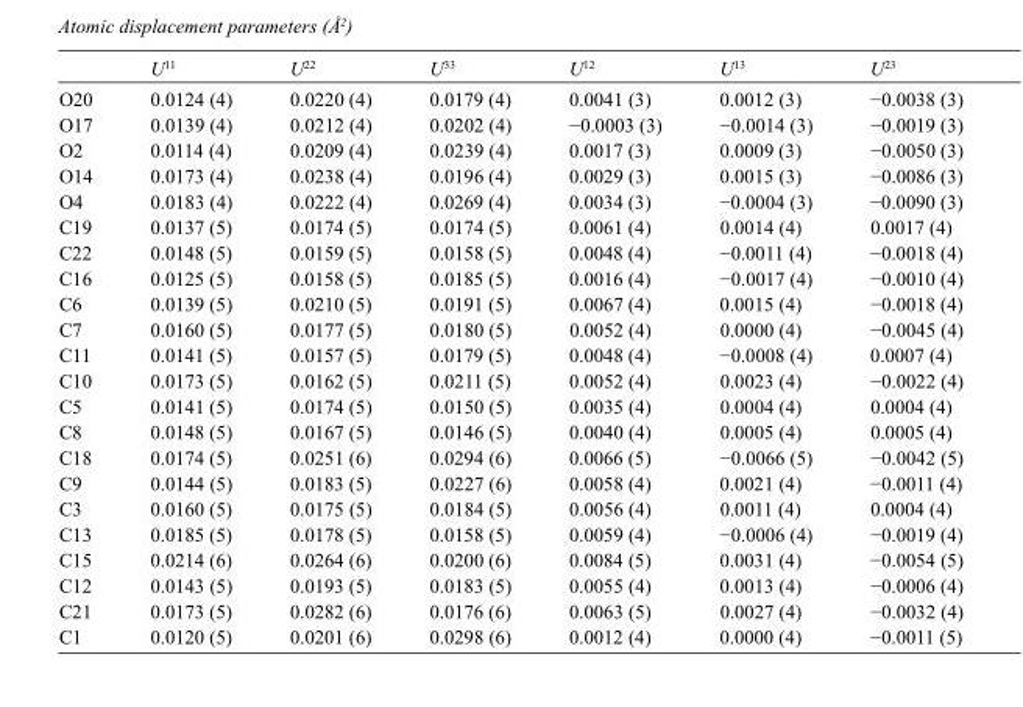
<table><thead><tr><td></td><td>U<sup>11</sup></td><td>U<sup>22</sup></td><td>U<sup>33</sup></td><td>U<sup>12</sup></td><td>U<sup>13</sup></td><td>U<sup>23</sup></td></tr></thead><tbody><tr><td>O20</td><td>0.0124 (4)</td><td>0.0220 (4)</td><td>0.0179 (4)</td><td>0.0041 (3)</td><td>0.0012 (3)</td><td>−0.0038 (3)</td></tr><tr><td>O17</td><td>0.0139 (4)</td><td>0.0212 (4)</td><td>0.0202 (4)</td><td>−0.0003 (3)</td><td>−0.0014 (3)</td><td>−0.0019 (3)</td></tr><tr><td>O2</td><td>0.0114 (4)</td><td>0.0209 (4)</td><td>0.0239 (4)</td><td>0.0017 (3)</td><td>0.0009 (3)</td><td>−0.0050 (3)</td></tr><tr><td>O14</td><td>0.0173 (4)</td><td>0.0238 (4)</td><td>0.0196 (4)</td><td>0.0029 (3)</td><td>0.0015 (3)</td><td>−0.0086 (3)</td></tr><tr><td>O4</td><td>0.0183 (4)</td><td>0.0222 (4)</td><td>0.0269 (4)</td><td>0.0034 (3)</td><td>−0.0004 (3)</td><td>−0.0090 (3)</td></tr><tr><td>C19</td><td>0.0137 (5)</td><td>0.0174 (5)</td><td>0.0174 (5)</td><td>0.0061 (4)</td><td>0.0014 (4)</td><td>0.0017 (4)</td></tr><tr><td>C22</td><td>0.0148 (5)</td><td>0.0159 (5)</td><td>0.0158 (5)</td><td>0.0048 (4)</td><td>−0.0011 (4)</td><td>−0.0018 (4)</td></tr><tr><td>C16</td><td>0.0125 (5)</td><td>0.0158 (5)</td><td>0.0185 (5)</td><td>0.0016 (4)</td><td>−0.0017 (4)</td><td>−0.0010 (4)</td></tr><tr><td>C6</td><td>0.0139 (5)</td><td>0.0210 (5)</td><td>0.0191 (5)</td><td>0.0067 (4)</td><td>0.0015 (4)</td><td>−0.0018 (4)</td></tr><tr><td>C7</td><td>0.0160 (5)</td><td>0.0177 (5)</td><td>0.0180 (5)</td><td>0.0052 (4)</td><td>0.0000 (4)</td><td>−0.0045 (4)</td></tr><tr><td>C11</td><td>0.0141 (5)</td><td>0.0157 (5)</td><td>0.0179 (5)</td><td>0.0048 (4)</td><td>−0.0008 (4)</td><td>0.0007 (4)</td></tr><tr><td>C10</td><td>0.0173 (5)</td><td>0.0162 (5)</td><td>0.0211 (5)</td><td>0.0052 (4)</td><td>0.0023 (4)</td><td>−0.0022 (4)</td></tr><tr><td>C5</td><td>0.0141 (5)</td><td>0.0174 (5)</td><td>0.0150 (5)</td><td>0.0035 (4)</td><td>0.0004 (4)</td><td>0.0004 (4)</td></tr><tr><td>C8</td><td>0.0148 (5)</td><td>0.0167 (5)</td><td>0.0146 (5)</td><td>0.0040 (4)</td><td>0.0005 (4)</td><td>0.0005 (4)</td></tr><tr><td>C18</td><td>0.0174 (5)</td><td>0.0251 (6)</td><td>0.0294 (6)</td><td>0.0066 (5)</td><td>−0.0066 (5)</td><td>−0.0042 (5)</td></tr><tr><td>C9</td><td>0.0144 (5)</td><td>0.0183 (5)</td><td>0.0227 (6)</td><td>0.0058 (4)</td><td>0.0021 (4)</td><td>−0.0011 (4)</td></tr><tr><td>C3</td><td>0.0160 (5)</td><td>0.0175 (5)</td><td>0.0184 (5)</td><td>0.0056 (4)</td><td>0.0011 (4)</td><td>0.0004 (4)</td></tr><tr><td>C13</td><td>0.0185 (5)</td><td>0.0178 (5)</td><td>0.0158 (5)</td><td>0.0059 (4)</td><td>−0.0006 (4)</td><td>−0.0019 (4)</td></tr><tr><td>C15</td><td>0.0214 (6)</td><td>0.0264 (6)</td><td>0.0200 (6)</td><td>0.0084 (5)</td><td>0.0031 (4)</td><td>−0.0054 (5)</td></tr><tr><td>C12</td><td>0.0143 (5)</td><td>0.0193 (5)</td><td>0.0183 (5)</td><td>0.0055 (4)</td><td>0.0013 (4)</td><td>−0.0006 (4)</td></tr><tr><td>C21</td><td>0.0173 (5)</td><td>0.0282 (6)</td><td>0.0176 (6)</td><td>0.0063 (5)</td><td>0.0027 (4)</td><td>−0.0032 (4)</td></tr><tr><td>C1</td><td>0.0120 (5)</td><td>0.0201 (6)</td><td>0.0298 (6)</td><td>0.0012 (4)</td><td>0.0000 (4)</td><td>−0.0011 (5)</td></tr></tbody></table>